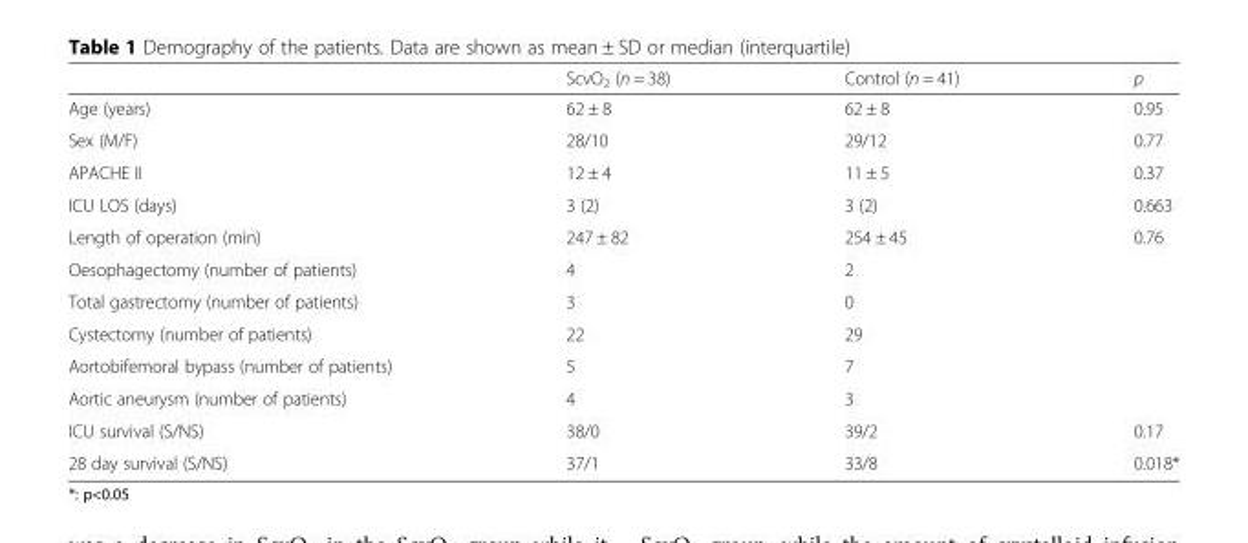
<table><thead><tr><td></td><td>ScvO<sub>2</sub> (n = 38)</td><td>Control (n = 41)</td><td>p</td></tr></thead><tbody><tr><td>Age (years)</td><td>62 ± 8</td><td>62 ± 8</td><td>0.95</td></tr><tr><td>Sex (M/F)</td><td>28/10</td><td>29/12</td><td>0.77</td></tr><tr><td>APACHE II</td><td>12 ± 4</td><td>11 ± 5</td><td>0.37</td></tr><tr><td>ICU LOS (days)</td><td>3 (2)</td><td>3 (2)</td><td>0.663</td></tr><tr><td>Length of operation (min)</td><td>247 ± 82</td><td>254 ± 45</td><td>0.76</td></tr><tr><td>Oesophagectomy (number of patients)</td><td>4</td><td>2</td><td></td></tr><tr><td>Total gastrectomy (number of patients)</td><td>3</td><td>0</td><td></td></tr><tr><td>Cystectomy (number of patients)</td><td>22</td><td>29</td><td></td></tr><tr><td>Aortobifemoral bypass (number of patients)</td><td>5</td><td>7</td><td></td></tr><tr><td>Aortic aneurysm (number of patients)</td><td>4</td><td>3</td><td></td></tr><tr><td>ICU survival (S/NS)</td><td>38/0</td><td>39/2</td><td>0.17</td></tr><tr><td>28 day survival (S/NS)</td><td>37/1</td><td>33/8</td><td>0.018*</td></tr></tbody></table>